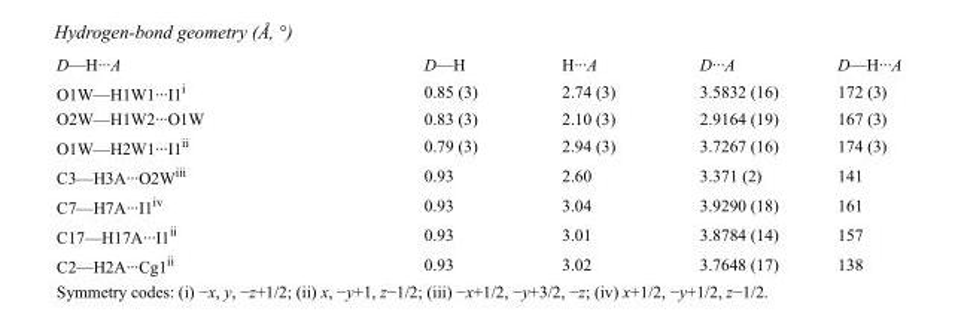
<table><tbody><tr><td>D—H···A</td><td>D—H</td><td>H···A</td><td>D···A</td><td>D—H···A</td></tr><tr><td>O1W—H1W1···I1<sup>i</sup></td><td>0.85 (3)</td><td>2.74 (3)</td><td>3.5832 (16)</td><td>172 (3)</td></tr><tr><td>O2W—H1W2···O1W</td><td>0.83 (3)</td><td>2.10 (3)</td><td>2.9164 (19)</td><td>167 (3)</td></tr><tr><td>O1W—H2W1···I1<sup>ii</sup></td><td>0.79 (3)</td><td>2.94 (3)</td><td>3.7267 (16)</td><td>174 (3)</td></tr><tr><td>C3—H3A···O2W<sup>iii</sup></td><td>0.93</td><td>2.60</td><td>3.371 (2)</td><td>141</td></tr><tr><td>C7—H7A···I1<sup>iv</sup></td><td>0.93</td><td>3.04</td><td>3.9290 (18)</td><td>161</td></tr><tr><td>C17—H17A···I1<sup>ii</sup></td><td>0.93</td><td>3.01</td><td>3.8784 (14)</td><td>157</td></tr><tr><td>C2—H2A···Cg1<sup>ii</sup></td><td>0.93</td><td>3.02</td><td>3.7648 (17)</td><td>138</td></tr></tbody></table>